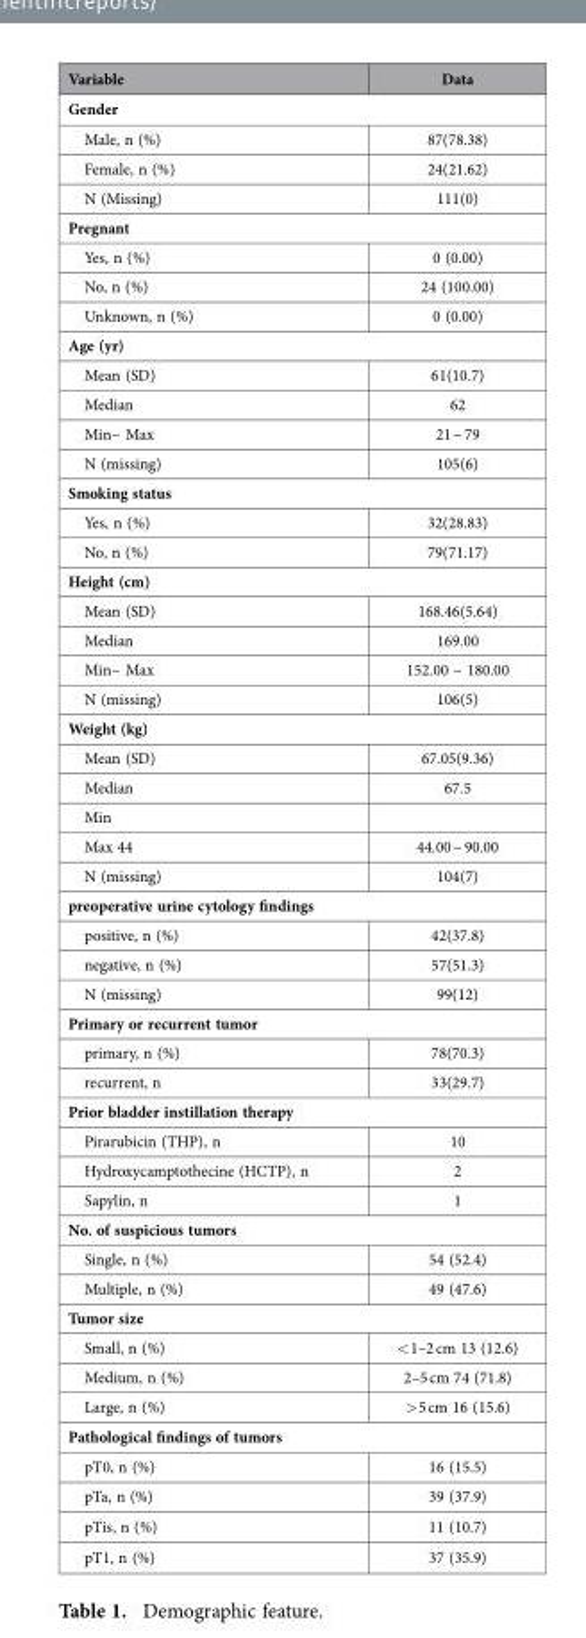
<table><thead><tr><td>Variable</td><td>Data</td></tr></thead><tbody><tr><td colspan="2">Gender</td></tr><tr><td>Male, n (%)</td><td>87(78.38)</td></tr><tr><td>Female, n (%)</td><td>24(21.62)</td></tr><tr><td>N (Missing)</td><td>111(0)</td></tr><tr><td colspan="2">Pregnant</td></tr><tr><td>Yes, n (%)</td><td>0 (0.00)</td></tr><tr><td>No, n (%)</td><td>24 (100.00)</td></tr><tr><td>Unknown, n (%)</td><td>0 (0.00)</td></tr><tr><td colspan="2">Age (yr)</td></tr><tr><td>Mean (SD)</td><td>61(10.7)</td></tr><tr><td>Median</td><td>62</td></tr><tr><td>Min~ Max</td><td>21 ~ 79</td></tr><tr><td>N (missing)</td><td>105(6)</td></tr><tr><td colspan="2">Smoking status</td></tr><tr><td>Yes, n (%)</td><td>32(28.83)</td></tr><tr><td>No, n (%)</td><td>79(71.17)</td></tr><tr><td colspan="2">Height (cm)</td></tr><tr><td>Mean (SD)</td><td>168.46(5.64)</td></tr><tr><td>Median</td><td>169.00</td></tr><tr><td>Min~ Max</td><td>152.00 ~ 180.00</td></tr><tr><td>N (missing)</td><td>106(5)</td></tr><tr><td colspan="2">Weight (kg)</td></tr><tr><td>Mean (SD)</td><td>67.05(9.36)</td></tr><tr><td>Median</td><td>67.5</td></tr><tr><td colspan="2">Min</td></tr><tr><td>Max 44</td><td>44.00 ~ 90.00</td></tr><tr><td>N (missing)</td><td>104(7)</td></tr><tr><td colspan="2">preoperative urine cytology findings</td></tr><tr><td>positive, n (%)</td><td>42(37.8)</td></tr><tr><td>negative, n (%)</td><td>57(51.3)</td></tr><tr><td>N (missing)</td><td>99(12)</td></tr><tr><td colspan="2">Primary or recurrent tumor</td></tr><tr><td>primary, n (%)</td><td>78(70.3)</td></tr><tr><td>recurrent, n</td><td>33(29.7)</td></tr><tr><td colspan="2">Prior bladder instillation therapy</td></tr><tr><td>Pirarubicin (THP), n</td><td>10</td></tr><tr><td>Hydroxycamptothecine (HCTP), n</td><td>2</td></tr><tr><td>Sapylin, n</td><td>1</td></tr><tr><td colspan="2">No. of suspicious tumors</td></tr><tr><td>Single, n (%)</td><td>54 (52.4)</td></tr><tr><td>Multiple, n (%)</td><td>49 (47.6)</td></tr><tr><td colspan="2">Tumor size</td></tr><tr><td>Small, n (%)</td><td>&lt; 1–2 cm 13 (12.6)</td></tr><tr><td>Medium, n (%)</td><td>2–5 cm 74 (71.8)</td></tr><tr><td>Large, n (%)</td><td>&gt; 5 cm 16 (15.6)</td></tr><tr><td colspan="2">Pathological findings of tumors</td></tr><tr><td>pT0, n (%)</td><td>16 (15.5)</td></tr><tr><td>pTa, n (%)</td><td>39 (37.9)</td></tr><tr><td>pTis, n (%)</td><td>11 (10.7)</td></tr><tr><td>pT1, n (%)</td><td>37 (35.9)</td></tr></tbody></table>